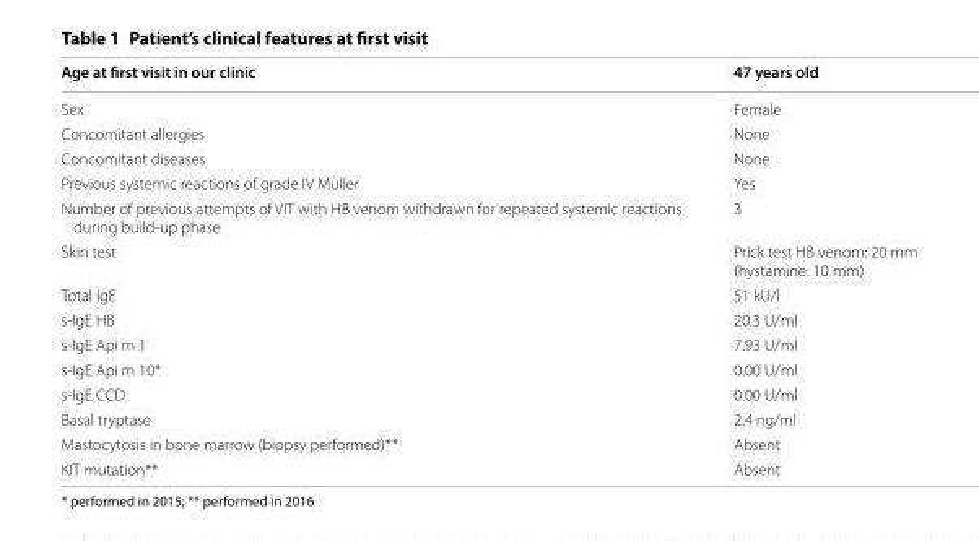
<table><thead><tr><td>Age at first visit in our clinic</td><td>47 years old</td></tr></thead><tbody><tr><td>Sex</td><td>Female</td></tr><tr><td>Concomitant allergies</td><td>None</td></tr><tr><td>Concomitant diseases</td><td>None</td></tr><tr><td>Previous systemic reactions of grade IV Muller</td><td>Yes</td></tr><tr><td>Number of previous attempts of VIT with HB venom withdrawn for repeated systemic reactions during build-up phase</td><td>3</td></tr><tr><td>Skin test</td><td>Prick test HB venom: 20 mm (hystamine: 10 mm)</td></tr><tr><td>Total IgE</td><td>51 kU/l</td></tr><tr><td>s-IgE HB</td><td>20.3 U/ml</td></tr><tr><td>s-IgE Api m 1</td><td>7.93 U/ml</td></tr><tr><td>s-IgE Api m 10*</td><td>0.00 U/ml</td></tr><tr><td>s-IgE CCD</td><td>0.00 U/ml</td></tr><tr><td>Basal tryptase</td><td>2.4 ng/ml</td></tr><tr><td>Mastocytosis in bone marrow (biopsy performed)**</td><td>Absent</td></tr><tr><td>KIT mutation**</td><td>Absent</td></tr></tbody></table>